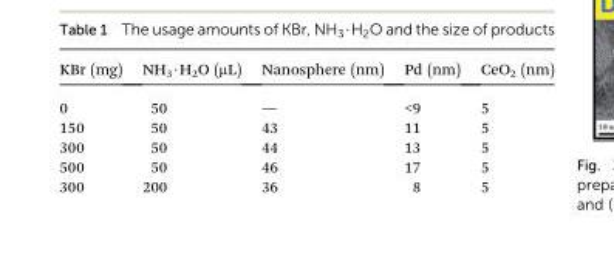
<table><thead><tr><td>KBr (mg)</td><td>NH<sub>3</sub>·H<sub>2</sub>O (μL)</td><td>Nanosphere (nm)</td><td>Pd (nm)</td><td>CeO<sub>2</sub> (nm)</td></tr></thead><tbody><tr><td>0</td><td>50</td><td>—</td><td>&lt;9</td><td>5</td></tr><tr><td>150</td><td>50</td><td>43</td><td>11</td><td>5</td></tr><tr><td>300</td><td>50</td><td>44</td><td>13</td><td>5</td></tr><tr><td>500</td><td>50</td><td>46</td><td>17</td><td>5</td></tr><tr><td>300</td><td>200</td><td>36</td><td>8</td><td>5</td></tr></tbody></table>